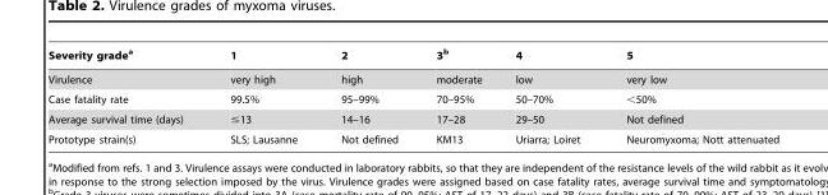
<table><thead><tr><td>Severity grade<sup>a</sup></td><td>1</td><td>2</td><td>3<sup>b</sup></td><td>4</td><td>5</td></tr></thead><tbody><tr><td>Virulence</td><td>very high</td><td>high</td><td>moderate</td><td>low</td><td>very low</td></tr><tr><td>Case fatality rate</td><td>99.5%</td><td>95–99%</td><td>70–95%</td><td>50–70%</td><td>&lt;50%</td></tr><tr><td>Average survival time (days)</td><td>≤13</td><td>14–16</td><td>17–28</td><td>29–50</td><td>Not defined</td></tr><tr><td>Prototype strain(s)</td><td>SLS; Lausanne</td><td>Not defined</td><td>KM13</td><td>Uriarra; Loiret</td><td>Neuromyxoma; Nott attenuated</td></tr></tbody></table>